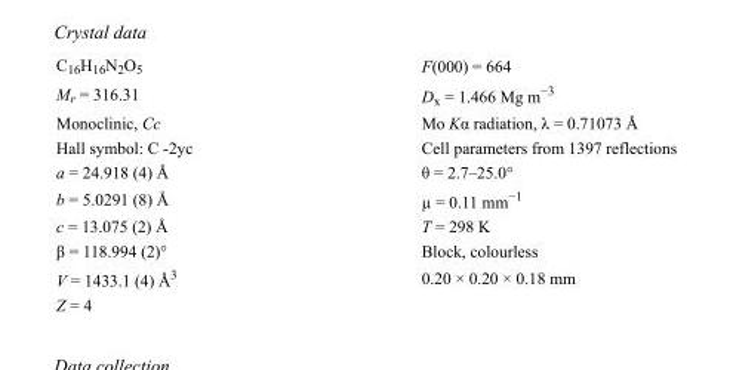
<table><tbody><tr><td>C<sub>16</sub>H<sub>16</sub>N<sub>2</sub>O<sub>5</sub></td><td>F(000) = 664</td></tr><tr><td>M<sub>r</sub> = 316.31</td><td>D<sub>x</sub> = 1.466 Mg m<sup>−3</sup></td></tr><tr><td>Monoclinic, Cc</td><td>Mo Kα radiation, λ = 0.71073 Å</td></tr><tr><td>Hall symbol: C -2yc</td><td>Cell parameters from 1397 reflections</td></tr><tr><td>a = 24.918 (4) Å</td><td>θ = 2.7–25.0°</td></tr><tr><td>b = 5.0291 (8) Å</td><td>µ = 0.11 mm<sup>−1</sup></td></tr><tr><td>c = 13.075 (2) Å</td><td>T = 298 K</td></tr><tr><td>β = 118.994 (2)°</td><td>Block, colourless</td></tr><tr><td>V = 1433.1 (4) Å<sup>3</sup></td><td>0.20 × 0.20 × 0.18 mm</td></tr><tr><td>Z = 4</td><td></td></tr></tbody></table>